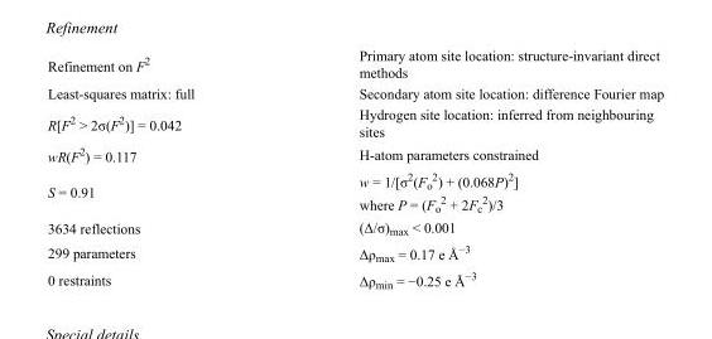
<table><tbody><tr><td>Refinement on F<sup>2</sup></td><td>Primary atom site location: structure-invariant direct methods</td></tr><tr><td>Least-squares matrix: full</td><td>Secondary atom site location: difference Fourier map</td></tr><tr><td>R[F<sup>2</sup> &gt; 2σ(F<sup>2</sup>)] = 0.042</td><td>Hydrogen site location: inferred from neighbouring sites</td></tr><tr><td>wR(F<sup>2</sup>) = 0.117</td><td>H-atom parameters constrained</td></tr><tr><td>S = 0.91</td><td>w = 1/[σ<sup>2</sup>(F<sub>o</sub> <sup>2</sup>) + (0.068P)<sup>2</sup>] where P = (F<sub>o</sub> <sup>2</sup> + 2F<sub>c</sub> <sup>2</sup>)/3</td></tr><tr><td>3634 reflections</td><td>(Δ/σ)<sub>max</sub> &lt; 0.001</td></tr><tr><td>299 parameters</td><td>Δρ<sub>max</sub> = 0.17 e Å<sup>−3</sup></td></tr><tr><td>0 restraints</td><td>Δρ<sub>min</sub> = −0.25 e Å<sup>−3</sup></td></tr></tbody></table>